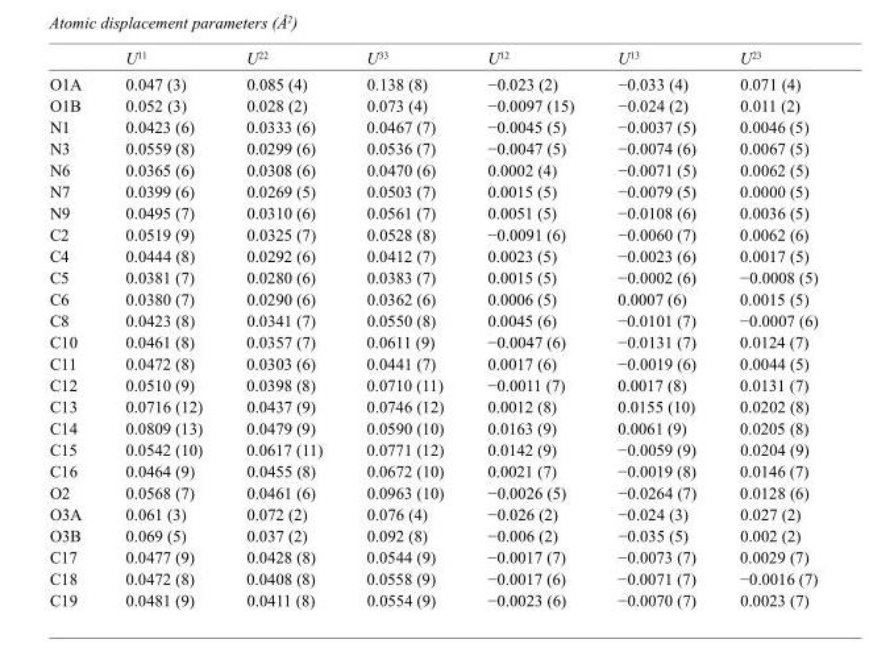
<table><thead><tr><td></td><td>U<sup>11</sup></td><td>U<sup>22</sup></td><td>U<sup>33</sup></td><td>U<sup>12</sup></td><td>U<sup>13</sup></td><td>U<sup>23</sup></td></tr></thead><tbody><tr><td>O1A</td><td>0.047 (3)</td><td>0.085 (4)</td><td>0.138 (8)</td><td>−0.023 (2)</td><td>−0.033 (4)</td><td>0.071 (4)</td></tr><tr><td>O1B</td><td>0.052 (3)</td><td>0.028 (2)</td><td>0.073 (4)</td><td>−0.0097 (15)</td><td>−0.024 (2)</td><td>0.011 (2)</td></tr><tr><td>N1</td><td>0.0423 (6)</td><td>0.0333 (6)</td><td>0.0467 (7)</td><td>−0.0045 (5)</td><td>−0.0037 (5)</td><td>0.0046 (5)</td></tr><tr><td>N3</td><td>0.0559 (8)</td><td>0.0299 (6)</td><td>0.0536 (7)</td><td>−0.0047 (5)</td><td>−0.0074 (6)</td><td>0.0067 (5)</td></tr><tr><td>N6</td><td>0.0365 (6)</td><td>0.0308 (6)</td><td>0.0470 (6)</td><td>0.0002 (4)</td><td>−0.0071 (5)</td><td>0.0062 (5)</td></tr><tr><td>N7</td><td>0.0399 (6)</td><td>0.0269 (5)</td><td>0.0503 (7)</td><td>0.0015 (5)</td><td>−0.0079 (5)</td><td>0.0000 (5)</td></tr><tr><td>N9</td><td>0.0495 (7)</td><td>0.0310 (6)</td><td>0.0561 (7)</td><td>0.0051 (5)</td><td>−0.0108 (6)</td><td>0.0036 (5)</td></tr><tr><td>C2</td><td>0.0519 (9)</td><td>0.0325 (7)</td><td>0.0528 (8)</td><td>−0.0091 (6)</td><td>−0.0060 (7)</td><td>0.0062 (6)</td></tr><tr><td>C4</td><td>0.0444 (8)</td><td>0.0292 (6)</td><td>0.0412 (7)</td><td>0.0023 (5)</td><td>−0.0023 (6)</td><td>0.0017 (5)</td></tr><tr><td>C5</td><td>0.0381 (7)</td><td>0.0280 (6)</td><td>0.0383 (7)</td><td>0.0015 (5)</td><td>−0.0002 (6)</td><td>−0.0008 (5)</td></tr><tr><td>C6</td><td>0.0380 (7)</td><td>0.0290 (6)</td><td>0.0362 (6)</td><td>0.0006 (5)</td><td>0.0007 (6)</td><td>0.0015 (5)</td></tr><tr><td>C8</td><td>0.0423 (8)</td><td>0.0341 (7)</td><td>0.0550 (8)</td><td>0.0045 (6)</td><td>−0.0101 (7)</td><td>−0.0007 (6)</td></tr><tr><td>C10</td><td>0.0461 (8)</td><td>0.0357 (7)</td><td>0.0611 (9)</td><td>−0.0047 (6)</td><td>−0.0131 (7)</td><td>0.0124 (7)</td></tr><tr><td>C11</td><td>0.0472 (8)</td><td>0.0303 (6)</td><td>0.0441 (7)</td><td>0.0017 (6)</td><td>−0.0019 (6)</td><td>0.0044 (5)</td></tr><tr><td>C12</td><td>0.0510 (9)</td><td>0.0398 (8)</td><td>0.0710 (11)</td><td>−0.0011 (7)</td><td>0.0017 (8)</td><td>0.0131 (7)</td></tr><tr><td>C13</td><td>0.0716 (12)</td><td>0.0437 (9)</td><td>0.0746 (12)</td><td>0.0012 (8)</td><td>0.0155 (10)</td><td>0.0202 (8)</td></tr><tr><td>C14</td><td>0.0809 (13)</td><td>0.0479 (9)</td><td>0.0590 (10)</td><td>0.0163 (9)</td><td>0.0061 (9)</td><td>0.0205 (8)</td></tr><tr><td>C15</td><td>0.0542 (10)</td><td>0.0617 (11)</td><td>0.0771 (12)</td><td>0.0142 (9)</td><td>−0.0059 (9)</td><td>0.0204 (9)</td></tr><tr><td>C16</td><td>0.0464 (9)</td><td>0.0455 (8)</td><td>0.0672 (10)</td><td>0.0021 (7)</td><td>−0.0019 (8)</td><td>0.0146 (7)</td></tr><tr><td>O2</td><td>0.0568 (7)</td><td>0.0461 (6)</td><td>0.0963 (10)</td><td>−0.0026 (5)</td><td>−0.0264 (7)</td><td>0.0128 (6)</td></tr><tr><td>O3A</td><td>0.061 (3)</td><td>0.072 (2)</td><td>0.076 (4)</td><td>−0.026 (2)</td><td>−0.024 (3)</td><td>0.027 (2)</td></tr><tr><td>O3B</td><td>0.069 (5)</td><td>0.037 (2)</td><td>0.092 (8)</td><td>−0.006 (2)</td><td>−0.035 (5)</td><td>0.002 (2)</td></tr><tr><td>C17</td><td>0.0477 (9)</td><td>0.0428 (8)</td><td>0.0544 (9)</td><td>−0.0017 (7)</td><td>−0.0073 (7)</td><td>0.0029 (7)</td></tr><tr><td>C18</td><td>0.0472 (8)</td><td>0.0408 (8)</td><td>0.0558 (9)</td><td>−0.0017 (6)</td><td>−0.0071 (7)</td><td>−0.0016 (7)</td></tr><tr><td>C19</td><td>0.0481 (9)</td><td>0.0411 (8)</td><td>0.0554 (9)</td><td>−0.0023 (6)</td><td>−0.0070 (7)</td><td>0.0023 (7)</td></tr></tbody></table>